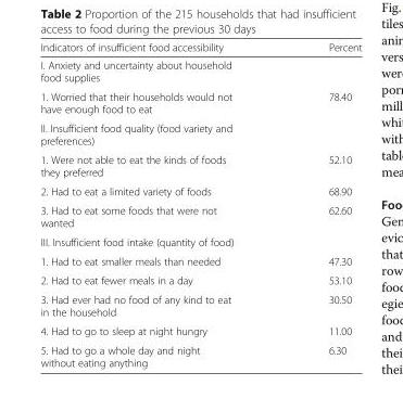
<table><thead><tr><td>Indicators of insufficient food accessibility</td><td>Percent</td></tr></thead><tbody><tr><td colspan="2">I. Anxiety and uncertainty about household food supplies</td></tr><tr><td>1. Worried that their households would not have enough food to eat</td><td>78.40</td></tr><tr><td colspan="2">II. Insufficient food quality (food variety and preferences)</td></tr><tr><td>1. Were not able to eat the kinds of foods they preferred</td><td>52.10</td></tr><tr><td>2. Had to eat a limited variety of foods</td><td>68.90</td></tr><tr><td>3. Had to eat some foods that were not wanted</td><td>62.60</td></tr><tr><td colspan="2">III. Insufficient food intake (quantity of food)</td></tr><tr><td>1. Had to eat smaller meals than needed</td><td>47.30</td></tr><tr><td>2. Had to eat fewer meals in a day</td><td>53.10</td></tr><tr><td>3. Had ever had no food of any kind to eat in the household</td><td>30.50</td></tr><tr><td>4. Had to go to sleep at night hungry</td><td>11.00</td></tr><tr><td>5. Had to go a whole day and night without eating anything</td><td>6.30</td></tr></tbody></table>